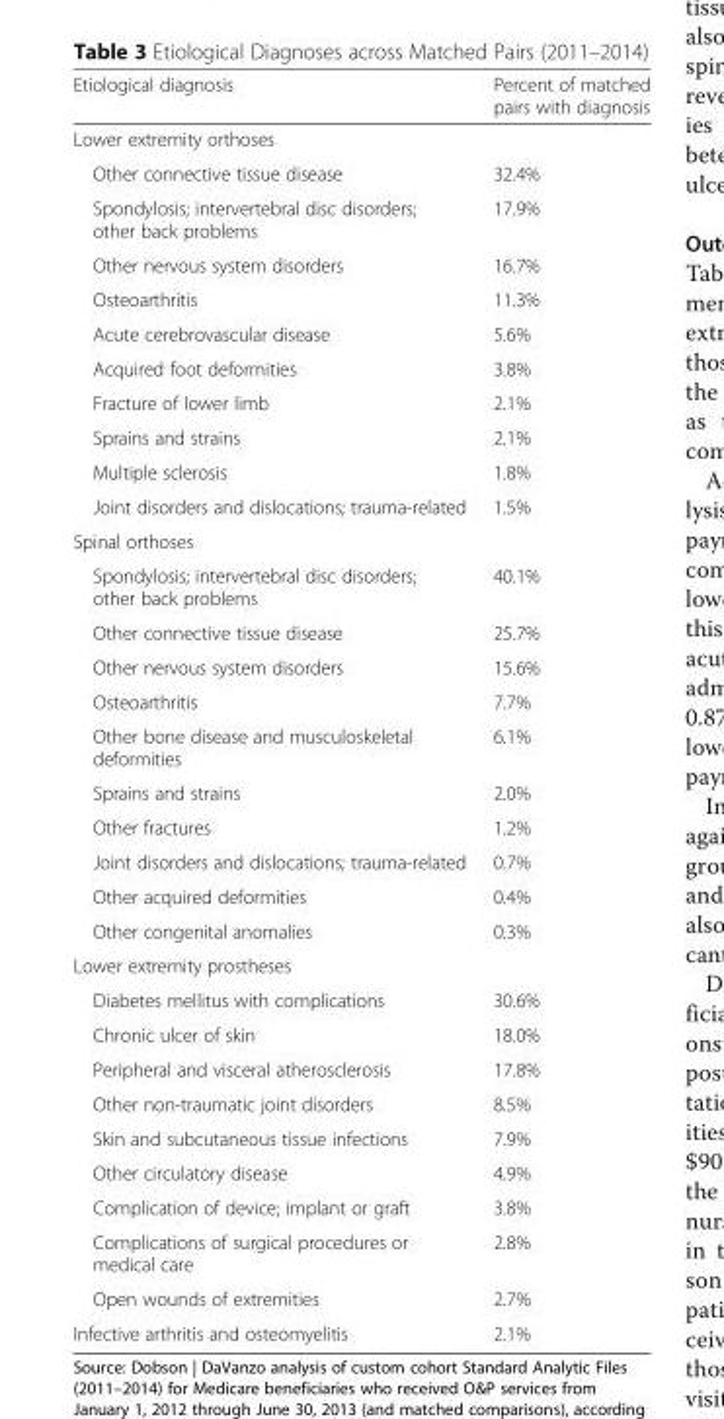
<table><thead><tr><td>Etiological diagnosis</td><td>Percent of matched pairs with diagnosis</td></tr></thead><tbody><tr><td colspan="2">Lower extremity orthoses</td></tr><tr><td>Other connective tissue disease</td><td>32.4%</td></tr><tr><td>Spondylosis; intervertebral disc disorders; other back problems</td><td>17.9%</td></tr><tr><td>Other nervous system disorders</td><td>16.7%</td></tr><tr><td>Osteoarthritis</td><td>11.3%</td></tr><tr><td>Acute cerebrovascular disease</td><td>5.6%</td></tr><tr><td>Acquired foot deformities</td><td>3.8%</td></tr><tr><td>Fracture of lower limb</td><td>2.1%</td></tr><tr><td>Sprains and strains</td><td>2.1%</td></tr><tr><td>Multiple sclerosis</td><td>1.8%</td></tr><tr><td>Joint disorders and dislocations; trauma-related</td><td>1.5%</td></tr><tr><td colspan="2">Spinal orthoses</td></tr><tr><td>Spondylosis; intervertebral disc disorders; other back problems</td><td>40.1%</td></tr><tr><td>Other connective tissue disease</td><td>25.7%</td></tr><tr><td>Other nervous system disorders</td><td>15.6%</td></tr><tr><td>Osteoarthritis</td><td>7.7%</td></tr><tr><td>Other bone disease and musculoskeletal deformities</td><td>6.1%</td></tr><tr><td>Sprains and strains</td><td>2.0%</td></tr><tr><td>Other fractures</td><td>1.2%</td></tr><tr><td>Joint disorders and dislocations; trauma-related</td><td>0.7%</td></tr><tr><td>Other acquired deformities</td><td>0.4%</td></tr><tr><td>Other congenital anomalies</td><td>0.3%</td></tr><tr><td colspan="2">Lower extremity prostheses</td></tr><tr><td>Diabetes mellitus with complications</td><td>30.6%</td></tr><tr><td>Chronic ulcer of skin</td><td>18.0%</td></tr><tr><td>Peripheral and visceral atherosclerosis</td><td>17.8%</td></tr><tr><td>Other non-traumatic joint disorders</td><td>8.5%</td></tr><tr><td>Skin and subcutaneous tissue infections</td><td>7.9%</td></tr><tr><td>Other circulatory disease</td><td>4.9%</td></tr><tr><td>Complication of device; implant or graft</td><td>3.8%</td></tr><tr><td>Complications of surgical procedures or medical care</td><td>2.8%</td></tr><tr><td>Open wounds of extremities</td><td>2.7%</td></tr><tr><td>Infective arthritis and osteomyelitis</td><td>2.1%</td></tr></tbody></table>